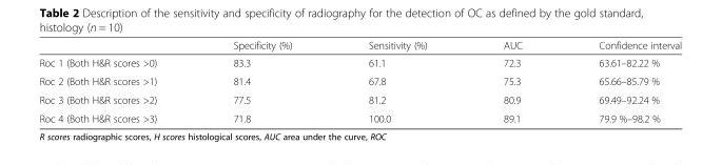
<table><thead><tr><td></td><td>Specificity (%)</td><td>Sensitivity (%)</td><td>AUC</td><td>Confidence interval</td></tr></thead><tbody><tr><td>Roc 1 (Both H&amp;R scores &gt;0)</td><td>83.3</td><td>61.1</td><td>72.3</td><td>63.61–82.22 %</td></tr><tr><td>Roc 2 (Both H&amp;R scores &gt;1)</td><td>81.4</td><td>67.8</td><td>75.3</td><td>65.66–85.79 %</td></tr><tr><td>Roc 3 (Both H&amp;R scores &gt;2)</td><td>77.5</td><td>81.2</td><td>80.9</td><td>69.49–92.24 %</td></tr><tr><td>Roc 4 (Both H&amp;R scores &gt;3)</td><td>71.8</td><td>100.0</td><td>89.1</td><td>79.9 %–98.2 %</td></tr></tbody></table>